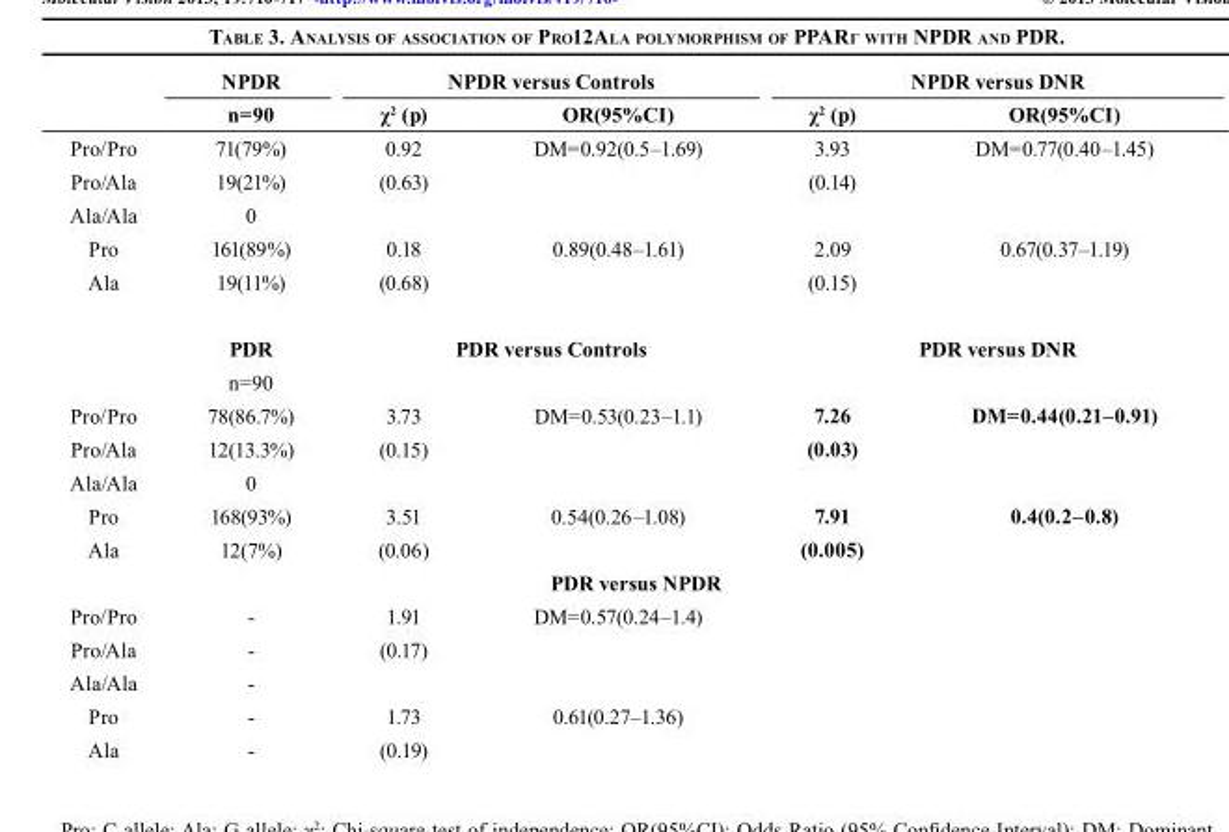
<table><thead><tr><td rowspan="2"></td><td rowspan="2">NPDR n=90</td><td colspan="2">NPDR versus Controls</td><td colspan="2">NPDR versus DNR</td></tr><tr><td>χ<sup>2</sup> (p)</td><td>OR(95%CI)</td><td>χ<sup>2</sup> (p)</td><td>OR(95%CI)</td></tr></thead><tbody><tr><td>Pro/Pro</td><td>71(79%)</td><td>0.92</td><td>DM=0.92(0.5–1.69)</td><td>3.93</td><td>DM=0.77(0.40–1.45)</td></tr><tr><td>Pro/Ala</td><td>19(21%)</td><td>(0.63)</td><td></td><td>(0.14)</td><td></td></tr><tr><td>Ala/Ala</td><td>0</td><td></td><td></td><td></td><td></td></tr><tr><td>Pro</td><td>161(89%)</td><td>0.18</td><td>0.89(0.48–1.61)</td><td>2.09</td><td>0.67(0.37–1.19)</td></tr><tr><td rowspan="3">Ala</td><td>19(11%)</td><td>(0.68)</td><td></td><td>(0.15)</td><td></td></tr><tr><td>PDR</td><td colspan="2">PDR versus Controls</td><td colspan="2">PDR versus DNR</td></tr><tr><td>n=90</td><td colspan="2"></td><td colspan="2"></td></tr><tr><td>Pro/Pro</td><td>78(86.7%)</td><td>3.73</td><td>DM=0.53(0.23–1.1)</td><td>7.26</td><td>DM=0.44(0.21–0.91)</td></tr><tr><td>Pro/Ala</td><td>12(13.3%)</td><td>(0.15)</td><td></td><td>(0.03)</td><td></td></tr><tr><td>Ala/Ala</td><td>0</td><td></td><td></td><td></td><td></td></tr><tr><td>Pro</td><td>168(93%)</td><td>3.51</td><td>0.54(0.26–1.08)</td><td>7.91</td><td>0.4(0.2–0.8)</td></tr><tr><td>Ala</td><td>12(7%)</td><td>(0.06)</td><td></td><td>(0.005)</td><td></td></tr><tr><td colspan="6">PDR versus NPDR</td></tr><tr><td>Pro/Pro</td><td>-</td><td>1.91</td><td>DM=0.57(0.24–1.4)</td><td></td><td></td></tr><tr><td>Pro/Ala</td><td>-</td><td>(0.17)</td><td></td><td></td><td></td></tr><tr><td>Ala/Ala</td><td>-</td><td></td><td></td><td></td><td></td></tr><tr><td>Pro</td><td>-</td><td>1.73</td><td>0.61(0.27–1.36)</td><td></td><td></td></tr><tr><td>Ala</td><td>-</td><td>(0.19)</td><td></td><td></td><td></td></tr></tbody></table>